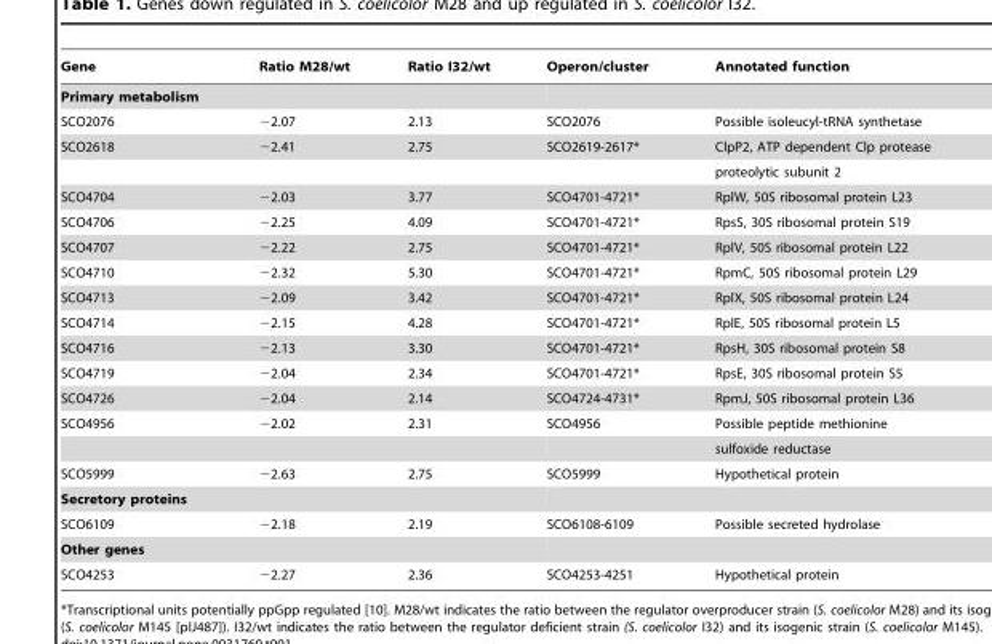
<table><thead><tr><td>Gene</td><td>Ratio M28/wt</td><td>Ratio I32/wt</td><td>Operon/cluster</td><td>Annotated function</td></tr></thead><tbody><tr><td colspan="5">Primary metabolism</td></tr><tr><td>SCO2076</td><td>−2.07</td><td>2.13</td><td>SCO2076</td><td>Possible isoleucyl-tRNA synthetase</td></tr><tr><td rowspan="2">SCO2618</td><td>−2.41</td><td>2.75</td><td>SCO2619-2617*</td><td>ClpP2, ATP dependent Clp protease</td></tr><tr><td></td><td></td><td></td><td>proteolytic subunit 2</td></tr><tr><td>SCO4704</td><td>−2.03</td><td>3.77</td><td>SCO4701-4721*</td><td>RplW, 50S ribosomal protein L23</td></tr><tr><td>SCO4706</td><td>−2.25</td><td>4.09</td><td>SCO4701-4721*</td><td>RpsS, 30S ribosomal protein S19</td></tr><tr><td>SCO4707</td><td>−2.22</td><td>2.75</td><td>SCO4701-4721*</td><td>RplV, 50S ribosomal protein L22</td></tr><tr><td>SCO4710</td><td>−2.32</td><td>5.30</td><td>SCO4701-4721*</td><td>RpmC, 50S ribosomal protein L29</td></tr><tr><td>SCO4713</td><td>−2.09</td><td>3.42</td><td>SCO4701-4721*</td><td>RplX, 50S ribosomal protein L24</td></tr><tr><td>SCO4714</td><td>−2.15</td><td>4.28</td><td>SCO4701-4721*</td><td>RplE, 50S ribosomal protein L5</td></tr><tr><td>SCO4716</td><td>−2.13</td><td>3.30</td><td>SCO4701-4721*</td><td>RpsH, 30S ribosomal protein S8</td></tr><tr><td>SCO4719</td><td>−2.04</td><td>2.34</td><td>SCO4701-4721*</td><td>RpsE, 30S ribosomal protein S5</td></tr><tr><td>SCO4726</td><td>−2.04</td><td>2.14</td><td>SCO4724-4731*</td><td>RpmJ, 50S ribosomal protein L36</td></tr><tr><td rowspan="2">SCO4956</td><td>−2.02</td><td>2.31</td><td>SCO4956</td><td>Possible peptide methionine</td></tr><tr><td></td><td></td><td></td><td>sulfoxide reductase</td></tr><tr><td>SCO5999</td><td>−2.63</td><td>2.75</td><td>SCO5999</td><td>Hypothetical protein</td></tr><tr><td colspan="5">Secretory proteins</td></tr><tr><td>SCO6109</td><td>−2.18</td><td>2.19</td><td>SCO6108-6109</td><td>Possible secreted hydrolase</td></tr><tr><td colspan="5">Other genes</td></tr><tr><td>SCO4253</td><td>−2.27</td><td>2.36</td><td>SCO4253-4251</td><td>Hypothetical protein</td></tr></tbody></table>